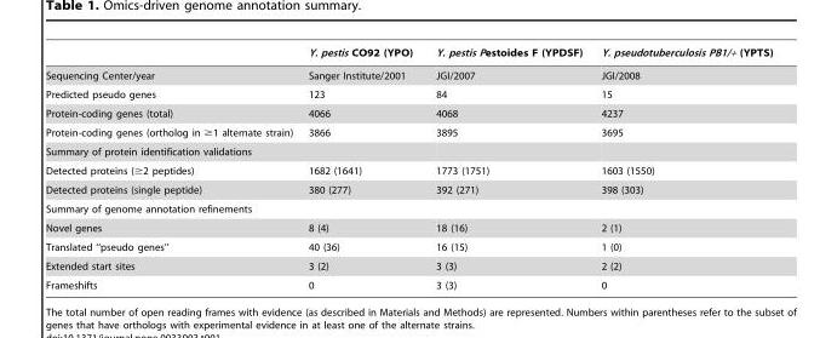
<table><thead><tr><td></td><td>Y. pestis CO92 (YPO)</td><td>Y. pestis Pestoides F (YPDSF)</td><td>Y. pseudotuberculosis PB1/+ (YPTS)</td></tr></thead><tbody><tr><td>Sequencing Center/year</td><td>Sanger Institute/2001</td><td>JGI/2007</td><td>JGI/2008</td></tr><tr><td>Predicted pseudo genes</td><td>123</td><td>84</td><td>15</td></tr><tr><td>Protein-coding genes (total)</td><td>4066</td><td>4068</td><td>4237</td></tr><tr><td>Protein-coding genes (ortholog in ≥1 alternate strain)</td><td>3866</td><td>3895</td><td>3695</td></tr><tr><td colspan="4">Summary of protein identification validations</td></tr><tr><td>Detected proteins (≥2 peptides)</td><td>1682 (1641)</td><td>1773 (1751)</td><td>1603 (1550)</td></tr><tr><td>Detected proteins (single peptide)</td><td>380 (277)</td><td>392 (271)</td><td>398 (303)</td></tr><tr><td colspan="4">Summary of genome annotation refinements</td></tr><tr><td>Novel genes</td><td>8 (4)</td><td>18 (16)</td><td>2 (1)</td></tr><tr><td>Translated ‘‘pseudo genes’’</td><td>40 (36)</td><td>16 (15)</td><td>1 (0)</td></tr><tr><td>Extended start sites</td><td>3 (2)</td><td>3 (3)</td><td>2 (2)</td></tr><tr><td>Frameshifts</td><td>0</td><td>3 (3)</td><td>0</td></tr></tbody></table>